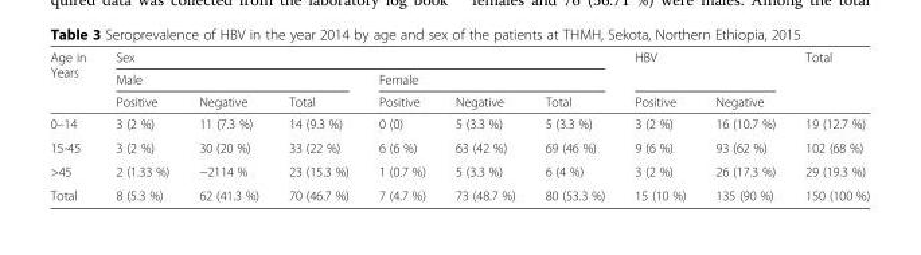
<table><thead><tr><td rowspan="3">Age in Years</td><td colspan="6">Sex</td><td rowspan="2" colspan="2">HBV</td><td rowspan="3">Total</td></tr><tr><td colspan="3">Male</td><td colspan="3">Female</td></tr><tr><td>Positive</td><td>Negative</td><td>Total</td><td>Positive</td><td>Negative</td><td>Total</td><td>Positive</td><td>Negative</td></tr></thead><tbody><tr><td>0–14</td><td>3 (2 %)</td><td>11 (7.3 %)</td><td>14 (9.3 %)</td><td>0 (0)</td><td>5 (3.3 %)</td><td>5 (3.3 %)</td><td>3 (2 %)</td><td>16 (10.7 %)</td><td>19 (12.7 %)</td></tr><tr><td>15-45</td><td>3 (2 %)</td><td>30 (20 %)</td><td>33 (22 %)</td><td>6 (6 %)</td><td>63 (42 %)</td><td>69 (46 %)</td><td>9 (6 %)</td><td>93 (62 %)</td><td>102 (68 %)</td></tr><tr><td>&gt;45</td><td>2 (1.33 %)</td><td>−2114 %</td><td>23 (15.3 %)</td><td>1 (0.7 %)</td><td>5 (3.3 %)</td><td>6 (4 %)</td><td>3 (2 %)</td><td>26 (17.3 %)</td><td>29 (19.3 %)</td></tr><tr><td>Total</td><td>8 (5.3 %)</td><td>62 (41.3 %)</td><td>70 (46.7 %)</td><td>7 (4.7 %)</td><td>73 (48.7 %)</td><td>80 (53.3 %)</td><td>15 (10 %)</td><td>135 (90 %)</td><td>150 (100 %)</td></tr></tbody></table>